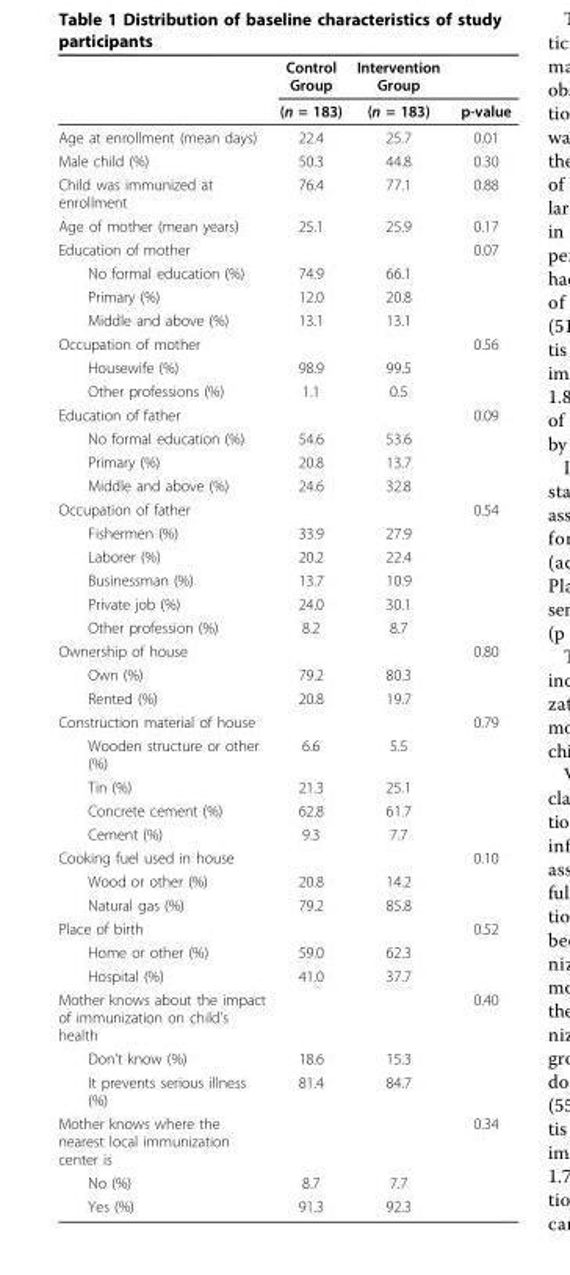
<table><thead><tr><td rowspan="2"></td><td rowspan="2">Control Group (n = 183)</td><td rowspan="2">Intervention Group (n = 183)</td><td rowspan="2">p-value</td></tr><tr></tr></thead><tbody><tr><td>Age at enrollment (mean days)</td><td>22.4</td><td>25.7</td><td>0.01</td></tr><tr><td>Male child (%)</td><td>50.3</td><td>44.8</td><td>0.30</td></tr><tr><td>Child was immunized at enrollment</td><td>76.4</td><td>77.1</td><td>0.88</td></tr><tr><td>Age of mother (mean years)</td><td>25.1</td><td>25.9</td><td>0.17</td></tr><tr><td>Education of mother</td><td></td><td></td><td>0.07</td></tr><tr><td>No formal education (%)</td><td>74.9</td><td>66.1</td><td></td></tr><tr><td>Primary (%)</td><td>12.0</td><td>20.8</td><td></td></tr><tr><td>Middle and above (%)</td><td>13.1</td><td>13.1</td><td></td></tr><tr><td>Occupation of mother</td><td></td><td></td><td>0.56</td></tr><tr><td>Housewife (%)</td><td>98.9</td><td>99.5</td><td></td></tr><tr><td>Other professions (%)</td><td>1.1</td><td>0.5</td><td></td></tr><tr><td>Education of father</td><td></td><td></td><td>0.09</td></tr><tr><td>No formal education (%)</td><td>54.6</td><td>53.6</td><td></td></tr><tr><td>Primary (%)</td><td>20.8</td><td>13.7</td><td></td></tr><tr><td>Middle and above (%)</td><td>24.6</td><td>32.8</td><td></td></tr><tr><td>Occupation of father</td><td></td><td></td><td>0.54</td></tr><tr><td>Fishermen (%)</td><td>33.9</td><td>27.9</td><td></td></tr><tr><td>Laborer (%)</td><td>20.2</td><td>22.4</td><td></td></tr><tr><td>Businessman (%)</td><td>13.7</td><td>10.9</td><td></td></tr><tr><td>Private job (%)</td><td>24.0</td><td>30.1</td><td></td></tr><tr><td>Other profession (%)</td><td>8.2</td><td>8.7</td><td></td></tr><tr><td>Ownership of house</td><td></td><td></td><td>0.80</td></tr><tr><td>Own (%)</td><td>79.2</td><td>80.3</td><td></td></tr><tr><td>Rented (%)</td><td>20.8</td><td>19.7</td><td></td></tr><tr><td>Construction material of house</td><td></td><td></td><td>0.79</td></tr><tr><td>Wooden structure or other (%)</td><td>6.6</td><td>5.5</td><td></td></tr><tr><td>Tin (%)</td><td>21.3</td><td>25.1</td><td></td></tr><tr><td>Concrete cement (%)</td><td>62.8</td><td>61.7</td><td></td></tr><tr><td>Cement (%)</td><td>9.3</td><td>7.7</td><td></td></tr><tr><td>Cooking fuel used in house</td><td></td><td></td><td>0.10</td></tr><tr><td>Wood or other (%)</td><td>20.8</td><td>14.2</td><td></td></tr><tr><td>Natural gas (%)</td><td>79.2</td><td>85.8</td><td></td></tr><tr><td>Place of birth</td><td></td><td></td><td>0.52</td></tr><tr><td>Home or other (%)</td><td>59.0</td><td>62.3</td><td></td></tr><tr><td>Hospital (%)</td><td>41.0</td><td>37.7</td><td></td></tr><tr><td>Mother knows about the impact of immunization on child’s health</td><td></td><td></td><td>0.40</td></tr><tr><td>Don’t know (%)</td><td>18.6</td><td>15.3</td><td></td></tr><tr><td>It prevents serious illness (%)</td><td>81.4</td><td>84.7</td><td></td></tr><tr><td>Mother knows where the nearest local immunization center is</td><td></td><td></td><td>0.34</td></tr><tr><td>No (%)</td><td>8.7</td><td>7.7</td><td></td></tr><tr><td>Yes (%)</td><td>91.3</td><td>92.3</td><td></td></tr></tbody></table>